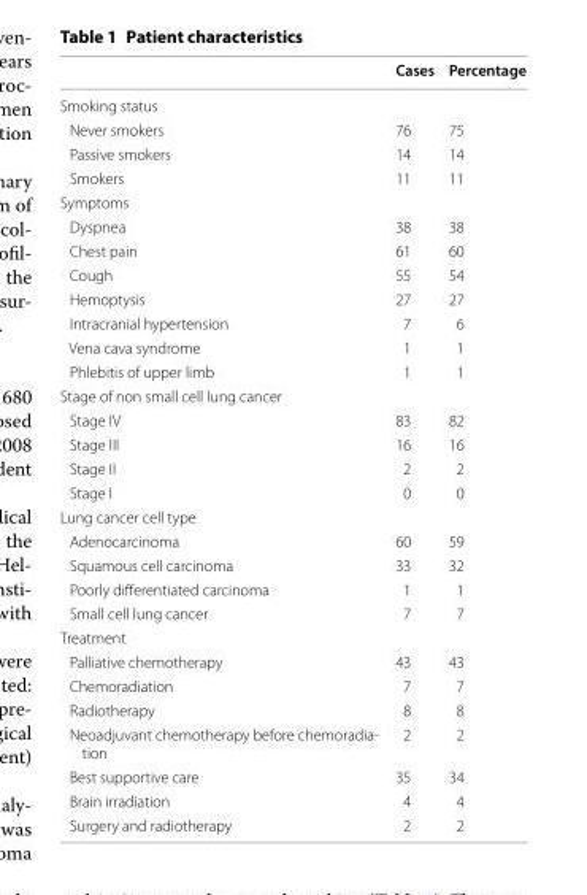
<table><thead><tr><td></td><td>Cases</td><td>Percentage</td></tr></thead><tbody><tr><td colspan="3">Smoking status</td></tr><tr><td>Never smokers</td><td>76</td><td>75</td></tr><tr><td>Passive smokers</td><td>14</td><td>14</td></tr><tr><td>Smokers</td><td>11</td><td>11</td></tr><tr><td colspan="3">Symptoms</td></tr><tr><td>Dyspnea</td><td>38</td><td>38</td></tr><tr><td>Chest pain</td><td>61</td><td>60</td></tr><tr><td>Cough</td><td>55</td><td>54</td></tr><tr><td>Hemoptysis</td><td>27</td><td>27</td></tr><tr><td>Intracranial hypertension</td><td>7</td><td>6</td></tr><tr><td>Vena cava syndrome</td><td>1</td><td>1</td></tr><tr><td>Phlebitis of upper limb</td><td>1</td><td>1</td></tr><tr><td colspan="3">Stage of non small cell lung cancer</td></tr><tr><td>Stage IV</td><td>83</td><td>82</td></tr><tr><td>Stage III</td><td>16</td><td>16</td></tr><tr><td>Stage II</td><td>2</td><td>2</td></tr><tr><td>Stage I</td><td>0</td><td>0</td></tr><tr><td colspan="3">Lung cancer cell type</td></tr><tr><td>Adenocarcinoma</td><td>60</td><td>59</td></tr><tr><td>Squamous cell carcinoma</td><td>33</td><td>32</td></tr><tr><td>Poorly differentiated carcinoma</td><td>1</td><td>1</td></tr><tr><td>Small cell lung cancer</td><td>7</td><td>7</td></tr><tr><td colspan="3">Treatment</td></tr><tr><td>Palliative chemotherapy</td><td>43</td><td>43</td></tr><tr><td>Chemoradiation</td><td>7</td><td>7</td></tr><tr><td>Radiotherapy</td><td>8</td><td>8</td></tr><tr><td>Neoadjuvant chemotherapy before chemoradia‑ tion</td><td>2</td><td>2</td></tr><tr><td>Best supportive care</td><td>35</td><td>34</td></tr><tr><td>Brain irradiation</td><td>4</td><td>4</td></tr><tr><td>Surgery and radiotherapy</td><td>2</td><td>2</td></tr></tbody></table>